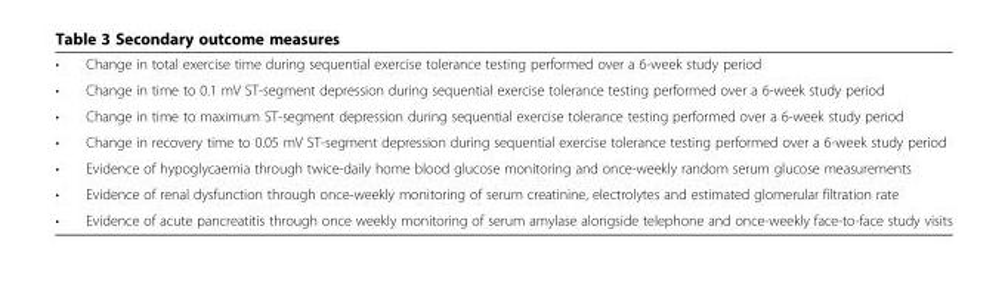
<table><tbody><tr><td>•</td><td>Change in total exercise time during sequential exercise tolerance testing performed over a 6-week study period</td></tr><tr><td>•</td><td>Change in time to 0.1 mV ST-segment depression during sequential exercise tolerance testing performed over a 6-week study period</td></tr><tr><td>•</td><td>Change in time to maximum ST-segment depression during sequential exercise tolerance testing performed over a 6-week study period</td></tr><tr><td>•</td><td>Change in recovery time to 0.05 mV ST-segment depression during sequential exercise tolerance testing performed over a 6-week study period</td></tr><tr><td>•</td><td>Evidence of hypoglycaemia through twice-daily home blood glucose monitoring and once-weekly random serum glucose measurements</td></tr><tr><td>•</td><td>Evidence of renal dysfunction through once-weekly monitoring of serum creatinine, electrolytes and estimated glomerular filtration rate</td></tr><tr><td>•</td><td>Evidence of acute pancreatitis through once weekly monitoring of serum amylase alongside telephone and once-weekly face-to-face study visits</td></tr></tbody></table>